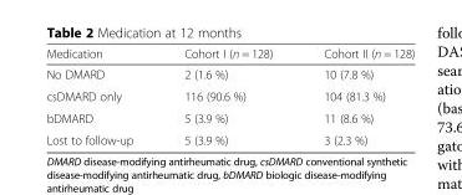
<table><thead><tr><td>Medication</td><td>Cohort I (n = 128)</td><td>Cohort II (n = 128)</td></tr></thead><tbody><tr><td>No DMARD</td><td>2 (1.6 %)</td><td>10 (7.8 %)</td></tr><tr><td>csDMARD only</td><td>116 (90.6 %)</td><td>104 (81.3 %)</td></tr><tr><td>bDMARD</td><td>5 (3.9 %)</td><td>11 (8.6 %)</td></tr><tr><td>Lost to follow-up</td><td>5 (3.9 %)</td><td>3 (2.3 %)</td></tr></tbody></table>